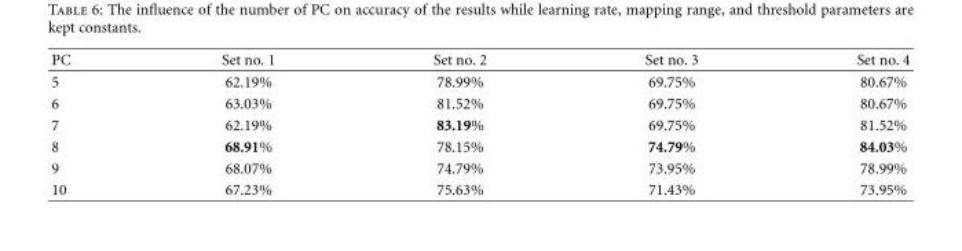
<table><thead><tr><td>PC</td><td>Set no. 1</td><td>Set no. 2</td><td>Set no. 3</td><td>Set no. 4</td></tr></thead><tbody><tr><td>5</td><td>62.19%</td><td>78.99%</td><td>69.75%</td><td>80.67%</td></tr><tr><td>6</td><td>63.03%</td><td>81.52%</td><td>69.75%</td><td>80.67%</td></tr><tr><td>7</td><td>62.19%</td><td>83.19%</td><td>69.75%</td><td>81.52%</td></tr><tr><td>8</td><td>68.91%</td><td>78.15%</td><td>74.79%</td><td>84.03%</td></tr><tr><td>9</td><td>68.07%</td><td>74.79%</td><td>73.95%</td><td>78.99%</td></tr><tr><td>10</td><td>67.23%</td><td>75.63%</td><td>71.43%</td><td>73.95%</td></tr></tbody></table>